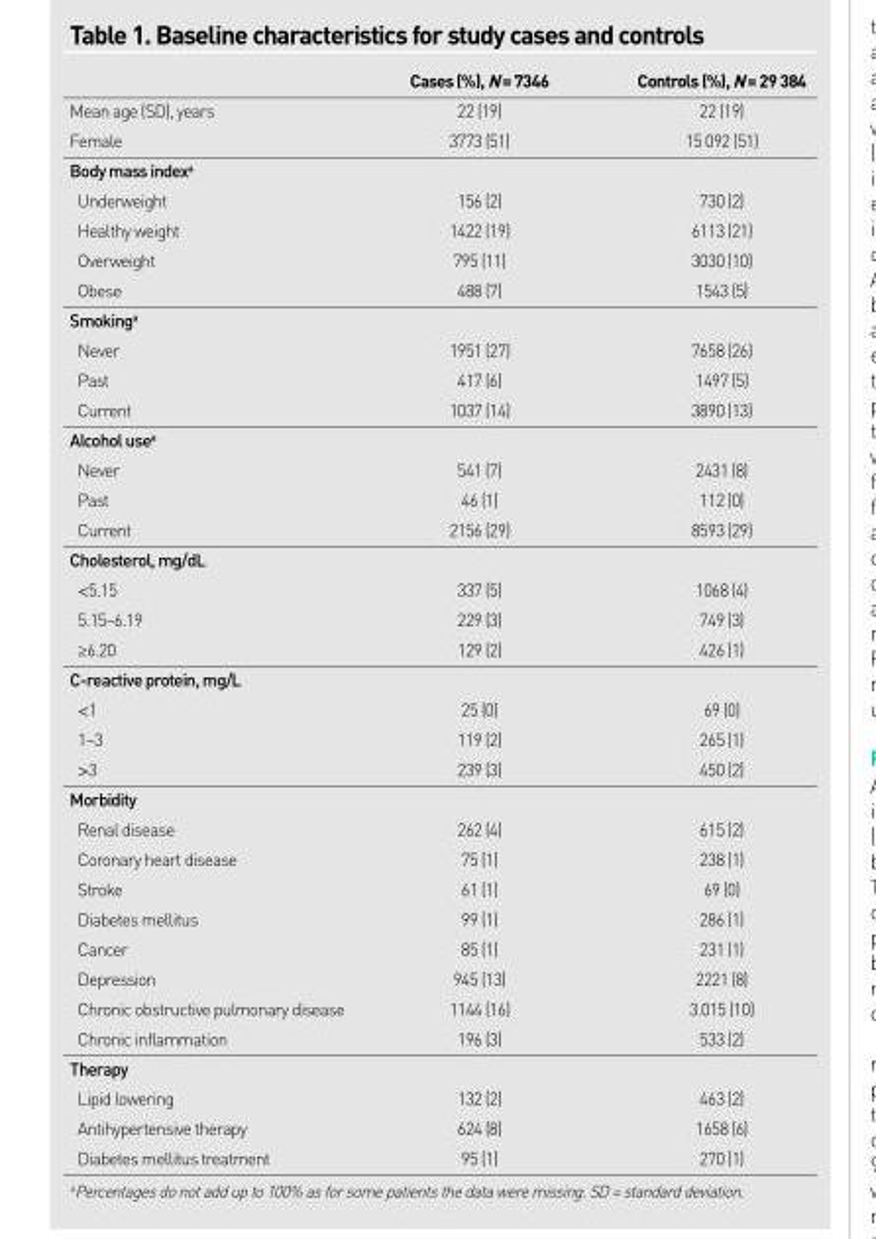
<table><thead><tr><td></td><td>Cases (%), N = 7346</td><td>Controls (%), N = 29 384</td></tr></thead><tbody><tr><td>Mean age (SD), years</td><td>22 (19)</td><td>22 (19)</td></tr><tr><td>Female</td><td>3773 (51)</td><td>15 092 (51)</td></tr><tr><td colspan="3">Body mass index<sup>a</sup></td></tr><tr><td>Underweight</td><td>156 (2)</td><td>730 (2)</td></tr><tr><td>Healthy weight</td><td>1422 (19)</td><td>6113 (21)</td></tr><tr><td>Overweight</td><td>795 (11)</td><td>3030 (10)</td></tr><tr><td>Obese</td><td>488 (7)</td><td>1543 (5)</td></tr><tr><td colspan="3">Smoking<sup>a</sup></td></tr><tr><td>Never</td><td>1951 (27)</td><td>7658 (26)</td></tr><tr><td>Past</td><td>417 (6)</td><td>1497 (5)</td></tr><tr><td>Current</td><td>1037 (14)</td><td>3890 (13)</td></tr><tr><td colspan="3">Alcohol use<sup>a</sup></td></tr><tr><td>Never</td><td>541 (7)</td><td>2431 (8)</td></tr><tr><td>Past</td><td>46 (1)</td><td>112 (0)</td></tr><tr><td>Current</td><td>2156 (29)</td><td>8593 (29)</td></tr><tr><td colspan="3">Cholesterol, mg/dL</td></tr><tr><td>&lt;5.15</td><td>337 (5)</td><td>1068 (4)</td></tr><tr><td>5.15–6.19</td><td>229 (3)</td><td>749 (3)</td></tr><tr><td>≥6.20</td><td>129 (2)</td><td>426 (1)</td></tr><tr><td colspan="3">C-reactive protein, mg/L</td></tr><tr><td>&lt;1</td><td>25 (0)</td><td>69 (0)</td></tr><tr><td>1–3</td><td>119 (2)</td><td>265 (1)</td></tr><tr><td>&gt;3</td><td>239 (3)</td><td>450 (2)</td></tr><tr><td colspan="3">Morbidity</td></tr><tr><td>Renal disease</td><td>262 (4)</td><td>615 (2)</td></tr><tr><td>Coronary heart disease</td><td>75 (1)</td><td>238 (1)</td></tr><tr><td>Stroke</td><td>61 (1)</td><td>69 (0)</td></tr><tr><td>Diabetes mellitus</td><td>99 (1)</td><td>286 (1)</td></tr><tr><td>Cancer</td><td>85 (1)</td><td>231 (1)</td></tr><tr><td>Depression</td><td>945 (13)</td><td>2221 (8)</td></tr><tr><td>Chronic obstructive pulmonary disease</td><td>1144 (16)</td><td>3.015 (10)</td></tr><tr><td>Chronic inflammation</td><td>196 (3)</td><td>533 (2)</td></tr><tr><td colspan="3">Therapy</td></tr><tr><td>Lipid lowering</td><td>132 (2)</td><td>463 (2)</td></tr><tr><td>Antihypertensive therapy</td><td>624 (8)</td><td>1658 (6)</td></tr><tr><td>Diabetes mellitus treatment</td><td>95 (1)</td><td>270 (1)</td></tr></tbody></table>